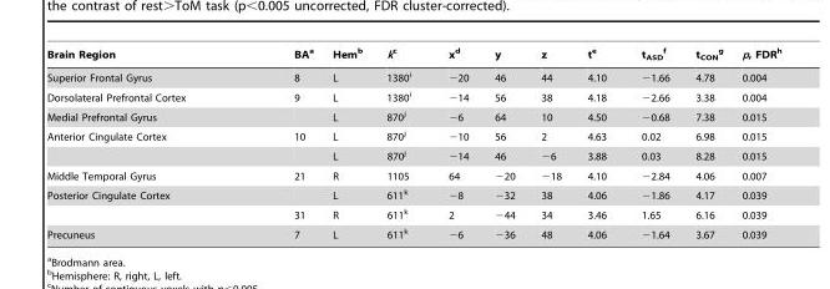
<table><thead><tr><td>Brain Region</td><td>BA<sup>a</sup></td><td>Hem<sup>b</sup></td><td>kc</td><td>x<sup>d</sup></td><td>y</td><td>z</td><td>t<sup>e</sup></td><td>t<sub>ASD</sub> f</td><td>t<sub>CON</sub> g</td><td>p, FDR<sup>h</sup></td></tr></thead><tbody><tr><td>Superior Frontal Gyrus</td><td>8</td><td>L</td><td>1380<sup>i</sup></td><td>−20</td><td>46</td><td>44</td><td>4.10</td><td>−1.66</td><td>4.78</td><td>0.004</td></tr><tr><td>Dorsolateral Prefrontal Cortex</td><td>9</td><td>L</td><td>1380<sup>i</sup></td><td>−14</td><td>56</td><td>38</td><td>4.18</td><td>−2.66</td><td>3.38</td><td>0.004</td></tr><tr><td>Medial Prefrontal Gyrus</td><td></td><td>L</td><td>870<sup>j</sup></td><td>−6</td><td>64</td><td>10</td><td>4.50</td><td>−0.68</td><td>7.38</td><td>0.015</td></tr><tr><td rowspan="2">Anterior Cingulate Cortex</td><td>10</td><td>L</td><td>870<sup>j</sup></td><td>−10</td><td>56</td><td>2</td><td>4.63</td><td>0.02</td><td>6.98</td><td>0.015</td></tr><tr><td></td><td>L</td><td>870<sup>j</sup></td><td>−14</td><td>46</td><td>−6</td><td>3.88</td><td>0.03</td><td>8.28</td><td>0.015</td></tr><tr><td>Middle Temporal Gyrus</td><td>21</td><td>R</td><td>1105</td><td>64</td><td>−20</td><td>−18</td><td>4.10</td><td>−2.84</td><td>4.06</td><td>0.007</td></tr><tr><td rowspan="2">Posterior Cingulate Cortex</td><td></td><td>L</td><td>611<sup>k</sup></td><td>−8</td><td>−32</td><td>38</td><td>4.06</td><td>−1.86</td><td>4.17</td><td>0.039</td></tr><tr><td>31</td><td>R</td><td>611<sup>k</sup></td><td>2</td><td>−44</td><td>34</td><td>3.46</td><td>1.65</td><td>6.16</td><td>0.039</td></tr><tr><td>Precuneus</td><td>7</td><td>L</td><td>611<sup>k</sup></td><td>−6</td><td>−36</td><td>48</td><td>4.06</td><td>−1.64</td><td>3.67</td><td>0.039</td></tr></tbody></table>